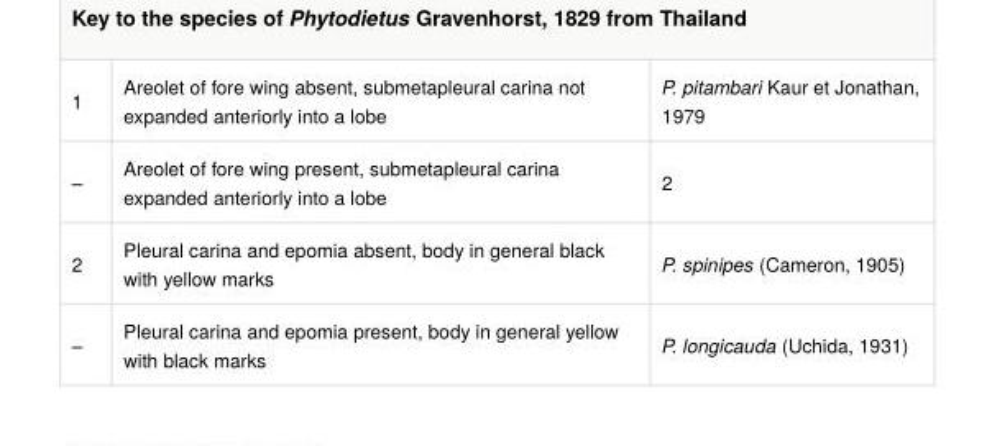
<table><tbody><tr><td>1</td><td>Areolet of fore wing absent, submetapleural carina not expanded anteriorly into a lobe</td><td>P. pitambari Kaur et Jonathan, 1979</td></tr><tr><td>–</td><td>Areolet of fore wing present, submetapleural carina expanded anteriorly into a lobe</td><td>2</td></tr><tr><td>2</td><td>Pleural carina and epomia absent, body in general black with yellow marks</td><td>P. spinipes (Cameron, 1905)</td></tr><tr><td>–</td><td>Pleural carina and epomia present, body in general yellow with black marks</td><td>P. longicauda (Uchida, 1931)</td></tr></tbody></table>